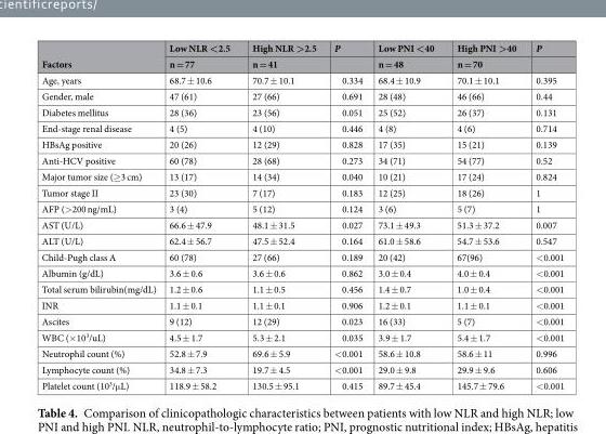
<table><thead><tr><td rowspan="2">Factors</td><td rowspan="2">Low NLR &lt;2.5 n = 77</td><td rowspan="2">High NLR &gt;2.5 n = 41</td><td rowspan="2">P</td><td rowspan="2">Low PNI &lt;40 n = 48</td><td rowspan="2">High PNI &gt;40 n = 70</td><td rowspan="2">P</td></tr><tr></tr></thead><tbody><tr><td>Age, years</td><td>68.7 ± 10.6</td><td>70.7 ± 10.1</td><td>0.334</td><td>68.4 ± 10.9</td><td>70.1 ± 10.1</td><td>0.395</td></tr><tr><td>Gender, male</td><td>47 (61)</td><td>27 (66)</td><td>0.691</td><td>28 (48)</td><td>46 (66)</td><td>0.44</td></tr><tr><td>Diabetes mellitus</td><td>28 (36)</td><td>23 (56)</td><td>0.051</td><td>25 (52)</td><td>26 (37)</td><td>0.131</td></tr><tr><td>End-stage renal disease</td><td>4 (5)</td><td>4 (10)</td><td>0.446</td><td>4 (8)</td><td>4 (6)</td><td>0.714</td></tr><tr><td>HBsAg positive</td><td>20 (26)</td><td>12 (29)</td><td>0.828</td><td>17 (35)</td><td>15 (21)</td><td>0.139</td></tr><tr><td>Anti-HCV positive</td><td>60 (78)</td><td>28 (68)</td><td>0.273</td><td>34 (71)</td><td>54 (77)</td><td>0.52</td></tr><tr><td>Major tumor size (≥3 cm)</td><td>13 (17)</td><td>14 (34)</td><td>0.040</td><td>10 (21)</td><td>17 (24)</td><td>0.824</td></tr><tr><td>Tumor stage II</td><td>23 (30)</td><td>7 (17)</td><td>0.183</td><td>12 (25)</td><td>18 (26)</td><td>1</td></tr><tr><td>AFP (&gt;200 ng/mL)</td><td>3 (4)</td><td>5 (12)</td><td>0.124</td><td>3 (6)</td><td>5 (7)</td><td>1</td></tr><tr><td>AST (U/L)</td><td>66.6 ± 47.9</td><td>48.1 ± 31.5</td><td>0.027</td><td>73.1 ± 49.3</td><td>51.3 ± 37.2</td><td>0.007</td></tr><tr><td>ALT (U/L)</td><td>62.4 ± 56.7</td><td>47.5 ± 52.4</td><td>0.164</td><td>61.0 ± 58.6</td><td>54.7 ± 53.6</td><td>0.547</td></tr><tr><td>Child-Pugh class A</td><td>60 (78)</td><td>27 (66)</td><td>0.189</td><td>20 (42)</td><td>67(96)</td><td>&lt;0.001</td></tr><tr><td>Albumin (g/dL)</td><td>3.6 ± 0.6</td><td>3.6 ± 0.6</td><td>0.862</td><td>3.0 ± 0.4</td><td>4.0 ± 0.4</td><td>&lt;0.001</td></tr><tr><td>Total serum bilirubin(mg/dL)</td><td>1.2 ± 0.6</td><td>1.1 ± 0.5</td><td>0.456</td><td>1.4 ± 0.7</td><td>1.0 ± 0.4</td><td>&lt;0.001</td></tr><tr><td>INR</td><td>1.1 ± 0.1</td><td>1.1 ± 0.1</td><td>0.906</td><td>1.2 ± 0.1</td><td>1.1 ± 0.1</td><td>&lt;0.001</td></tr><tr><td>Ascites</td><td>9 (12)</td><td>12 (29)</td><td>0.023</td><td>16 (33)</td><td>5 (7)</td><td>&lt;0.001</td></tr><tr><td>WBC (×10<sup>3</sup>/uL)</td><td>4.5 ± 1.7</td><td>5.3 ± 2.1</td><td>0.035</td><td>3.9 ± 1.7</td><td>5.4 ± 1.7</td><td>&lt;0.001</td></tr><tr><td>Neutrophil count (%)</td><td>52.8 ± 7.9</td><td>69.6 ± 5.9</td><td>&lt;0.001</td><td>58.6 ± 10.8</td><td>58.6 ± 11</td><td>0.996</td></tr><tr><td>Lymphocyte count (%)</td><td>34.8 ± 7.3</td><td>19.7 ± 4.5</td><td>&lt;0.001</td><td>29.0 ± 9.8</td><td>29.9 ± 9.6</td><td>0.606</td></tr><tr><td>Platelet count (10<sup>3</sup>/μL)</td><td>118.9 ± 58.2</td><td>130.5 ± 95.1</td><td>0.415</td><td>89.7 ± 45.4</td><td>145.7 ± 79.6</td><td>&lt;0.001</td></tr></tbody></table>